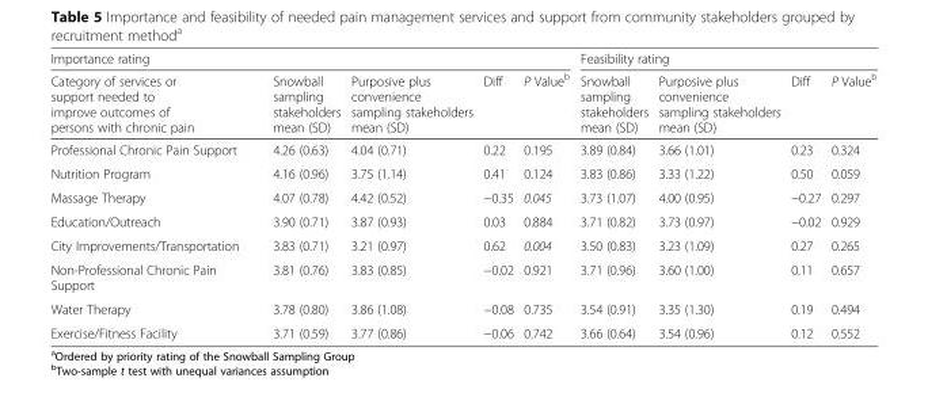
<table><thead><tr><td colspan="5">Importance rating</td><td colspan="4">Feasibility rating</td></tr><tr><td>Category of services or support needed to improve outcomes of persons with chronic pain</td><td>Snowball sampling stakeholders mean (SD)</td><td>Purposive plus convenience sampling stakeholders mean (SD)</td><td>Diff</td><td>P Value<sup>b</sup></td><td>Snowball sampling stakeholders mean (SD)</td><td>Purposive plus convenience sampling stakeholders mean (SD)</td><td>Diff</td><td>P Value<sup>b</sup></td></tr></thead><tbody><tr><td>Professional Chronic Pain Support</td><td>4.26 (0.63)</td><td>4.04 (0.71)</td><td>0.22</td><td>0.195</td><td>3.89 (0.84)</td><td>3.66 (1.01)</td><td>0.23</td><td>0.324</td></tr><tr><td>Nutrition Program</td><td>4.16 (0.96)</td><td>3.75 (1.14)</td><td>0.41</td><td>0.124</td><td>3.83 (0.86)</td><td>3.33 (1.22)</td><td>0.50</td><td>0.059</td></tr><tr><td>Massage Therapy</td><td>4.07 (0.78)</td><td>4.42 (0.52)</td><td>−0.35</td><td>0.045</td><td>3.73 (1.07)</td><td>4.00 (0.95)</td><td>−0.27</td><td>0.297</td></tr><tr><td>Education/Outreach</td><td>3.90 (0.71)</td><td>3.87 (0.93)</td><td>0.03</td><td>0.884</td><td>3.71 (0.82)</td><td>3.73 (0.97)</td><td>−0.02</td><td>0.929</td></tr><tr><td>City Improvements/Transportation</td><td>3.83 (0.71)</td><td>3.21 (0.97)</td><td>0.62</td><td>0.004</td><td>3.50 (0.83)</td><td>3.23 (1.09)</td><td>0.27</td><td>0.265</td></tr><tr><td>Non-Professional Chronic Pain Support</td><td>3.81 (0.76)</td><td>3.83 (0.85)</td><td>−0.02</td><td>0.921</td><td>3.71 (0.96)</td><td>3.60 (1.00)</td><td>0.11</td><td>0.657</td></tr><tr><td>Water Therapy</td><td>3.78 (0.80)</td><td>3.86 (1.08)</td><td>−0.08</td><td>0.735</td><td>3.54 (0.91)</td><td>3.35 (1.30)</td><td>0.19</td><td>0.494</td></tr><tr><td>Exercise/Fitness Facility</td><td>3.71 (0.59)</td><td>3.77 (0.86)</td><td>−0.06</td><td>0.742</td><td>3.66 (0.64)</td><td>3.54 (0.96)</td><td>0.12</td><td>0.552</td></tr></tbody></table>